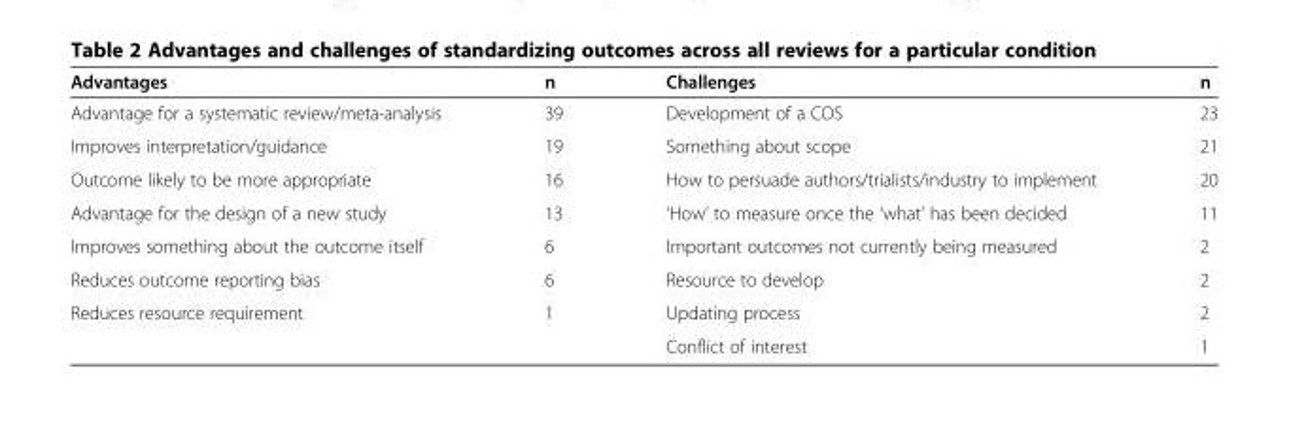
<table><thead><tr><td>Advantages</td><td>n</td><td>Challenges</td><td>n</td></tr></thead><tbody><tr><td>Advantage for a systematic review/meta-analysis</td><td>39</td><td>Development of a COS</td><td>23</td></tr><tr><td>Improves interpretation/guidance</td><td>19</td><td>Something about scope</td><td>21</td></tr><tr><td>Outcome likely to be more appropriate</td><td>16</td><td>How to persuade authors/trialists/industry to implement</td><td>20</td></tr><tr><td>Advantage for the design of a new study</td><td>13</td><td>‘How’ to measure once the ‘what’ has been decided</td><td>11</td></tr><tr><td>Improves something about the outcome itself</td><td>6</td><td>Important outcomes not currently being measured</td><td>2</td></tr><tr><td>Reduces outcome reporting bias</td><td>6</td><td>Resource to develop</td><td>2</td></tr><tr><td rowspan="2">Reduces resource requirement</td><td>1</td><td>Updating process</td><td>2</td></tr><tr><td></td><td>Conflict of interest</td><td>1</td></tr></tbody></table>